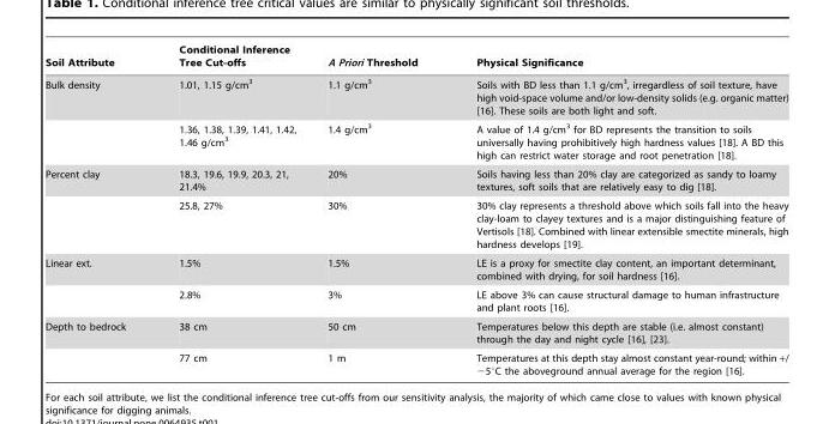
<table><thead><tr><td>Soil Attribute</td><td>Conditional Inference Tree Cut-offs</td><td>A Priori Threshold</td><td>Physical Significance</td></tr></thead><tbody><tr><td rowspan="2">Bulk density</td><td>1.01, 1.15 g/cm<sup>3</sup></td><td>1.1 g/cm<sup>3</sup></td><td>Soils with BD less than 1.1 g/cm<sup>3</sup>, irregardless of soil texture, have high void-space volume and/or low-density solids (e.g. organic matter) [16]. These soils are both light and soft.</td></tr><tr><td>1.36, 1.38, 1.39, 1.41, 1.42, 1.46 g/cm<sup>3</sup></td><td>1.4 g/cm<sup>3</sup></td><td>A value of 1.4 g/cm<sup>3</sup> for BD represents the transition to soils universally having prohibitively high hardness values [18]. A BD this high can restrict water storage and root penetration [18].</td></tr><tr><td rowspan="2">Percent clay</td><td>18.3, 19.6, 19.9, 20.3, 21, 21.4%</td><td>20%</td><td>Soils having less than 20% clay are categorized as sandy to loamy textures, soft soils that are relatively easy to dig [18].</td></tr><tr><td>25.8, 27%</td><td>30%</td><td>30% clay represents a threshold above which soils fall into the heavy clay-loam to clayey textures and is a major distinguishing feature of Vertisols [18]. Combined with linear extensible smectite minerals, high hardness develops [19].</td></tr><tr><td rowspan="2">Linear ext.</td><td>1.5%</td><td>1.5%</td><td>LE is a proxy for smectite clay content, an important determinant, combined with drying, for soil hardness [16].</td></tr><tr><td>2.8%</td><td>3%</td><td>LE above 3% can cause structural damage to human infrastructure and plant roots [16].</td></tr><tr><td rowspan="2">Depth to bedrock</td><td>38 cm</td><td>50 cm</td><td>Temperatures below this depth are stable (i.e. almost constant) through the day and night cycle [16], [23].</td></tr><tr><td>77 cm</td><td>1 m</td><td>Temperatures at this depth stay almost constant year-round; within +/ −5°C the aboveground annual average for the region [16].</td></tr></tbody></table>